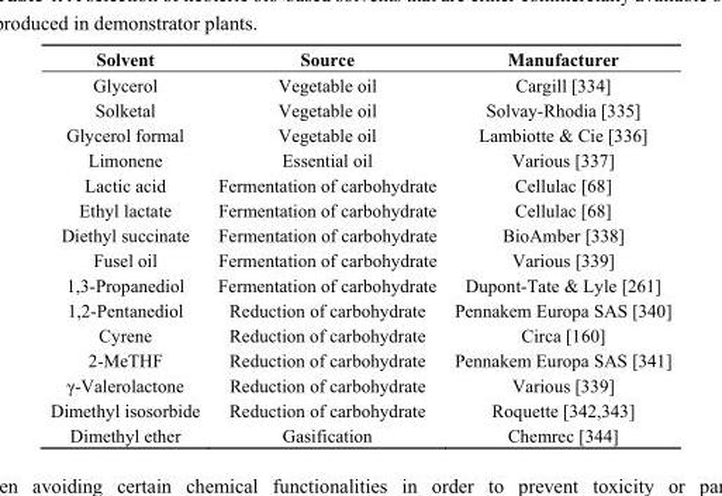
<table><thead><tr><td>Solvent</td><td>Source</td><td>Manufacturer</td></tr></thead><tbody><tr><td>Glycerol</td><td>Vegetable oil</td><td>Cargill [334]</td></tr><tr><td>Solketal</td><td>Vegetable oil</td><td>Solvay-Rhodia [335]</td></tr><tr><td>Glycerol formal</td><td>Vegetable oil</td><td>Lambiotte &amp; Cie [336]</td></tr><tr><td>Limonene</td><td>Essential oil</td><td>Various [337]</td></tr><tr><td>Lactic acid</td><td>Fermentation of carbohydrate</td><td>Cellulac [68]</td></tr><tr><td>Ethyl lactate</td><td>Fermentation of carbohydrate</td><td>Cellulac [68]</td></tr><tr><td>Diethyl succinate</td><td>Fermentation of carbohydrate</td><td>BioAmber [338]</td></tr><tr><td>Fusel oil</td><td>Fermentation of carbohydrate</td><td>Various [339]</td></tr><tr><td>1,3-Propanediol</td><td>Fermentation of carbohydrate</td><td>Dupont-Tate &amp; Lyle [261]</td></tr><tr><td>1,2-Pentanediol</td><td>Reduction of carbohydrate</td><td>Pennakem Europa SAS [340]</td></tr><tr><td>Cyrene</td><td>Reduction of carbohydrate</td><td>Circa [160]</td></tr><tr><td>2-MeTHF</td><td>Reduction of carbohydrate</td><td>Pennakem Europa SAS [341]</td></tr><tr><td>γ-Valerolactone</td><td>Reduction of carbohydrate</td><td>Various [339]</td></tr><tr><td>Dimethyl isosorbide</td><td>Reduction of carbohydrate</td><td>Roquette [342,343]</td></tr><tr><td>Dimethyl ether</td><td>Gasification</td><td>Chemrec [344]</td></tr></tbody></table>